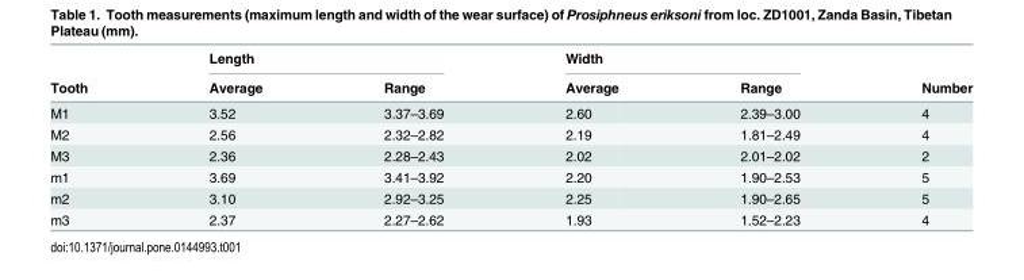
<table><thead><tr><td rowspan="2">Tooth</td><td colspan="2">Length</td><td colspan="2">Width</td><td rowspan="2">Number</td></tr><tr><td>Average</td><td>Range</td><td>Average</td><td>Range</td></tr></thead><tbody><tr><td>M1</td><td>3.52</td><td>3.37–3.69</td><td>2.60</td><td>2.39–3.00</td><td>4</td></tr><tr><td>M2</td><td>2.56</td><td>2.32–2.82</td><td>2.19</td><td>1.81–2.49</td><td>4</td></tr><tr><td>M3</td><td>2.36</td><td>2.28–2.43</td><td>2.02</td><td>2.01–2.02</td><td>2</td></tr><tr><td>m1</td><td>3.69</td><td>3.41–3.92</td><td>2.20</td><td>1.90–2.53</td><td>5</td></tr><tr><td>m2</td><td>3.10</td><td>2.92–3.25</td><td>2.25</td><td>1.90–2.65</td><td>5</td></tr><tr><td>m3</td><td>2.37</td><td>2.27–2.62</td><td>1.93</td><td>1.52–2.23</td><td>4</td></tr></tbody></table>